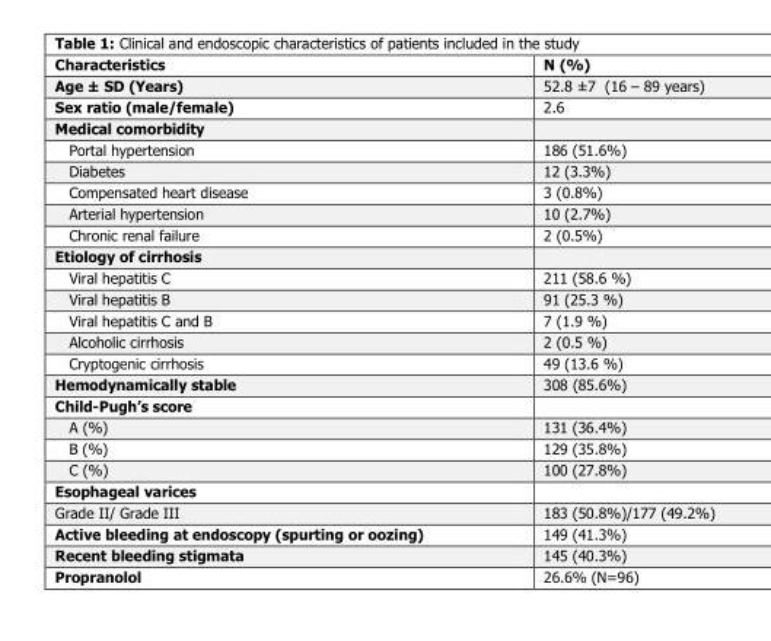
<table><thead><tr><td>Characteristics</td><td>N (%)</td></tr></thead><tbody><tr><td>Age ± SD (Years)</td><td>52.8 ±7 (16 – 89 years)</td></tr><tr><td>Sex ratio (male/female)</td><td>2.6</td></tr><tr><td colspan="2">Medical comorbidity</td></tr><tr><td>Portal hypertension</td><td>186 (51.6%)</td></tr><tr><td>Diabetes</td><td>12 (3.3%)</td></tr><tr><td>Compensated heart disease</td><td>3 (0.8%)</td></tr><tr><td>Arterial hypertension</td><td>10 (2.7%)</td></tr><tr><td>Chronic renal failure</td><td>2 (0.5%)</td></tr><tr><td colspan="2">Etiology of cirrhosis</td></tr><tr><td>Viral hepatitis C</td><td>211 (58.6 %)</td></tr><tr><td>Viral hepatitis B</td><td>91 (25.3 %)</td></tr><tr><td>Viral hepatitis C and B</td><td>7 (1.9 %)</td></tr><tr><td>Alcoholic cirrhosis</td><td>2 (0.5 %)</td></tr><tr><td>Cryptogenic cirrhosis</td><td>49 (13.6 %)</td></tr><tr><td>Hemodynamically stable</td><td>308 (85.6%)</td></tr><tr><td colspan="2">Child-Pugh’s score</td></tr><tr><td>A (%)</td><td>131 (36.4%)</td></tr><tr><td>B (%)</td><td>129 (35.8%)</td></tr><tr><td>C (%)</td><td>100 (27.8%)</td></tr><tr><td colspan="2">Esophageal varices</td></tr><tr><td>Grade II/ Grade III</td><td>183 (50.8%)/177 (49.2%)</td></tr><tr><td>Active bleeding at endoscopy (spurting or oozing)</td><td>149 (41.3%)</td></tr><tr><td>Recent bleeding stigmata</td><td>145 (40.3%)</td></tr><tr><td>Propranolol</td><td>26.6% (N=96)</td></tr></tbody></table>